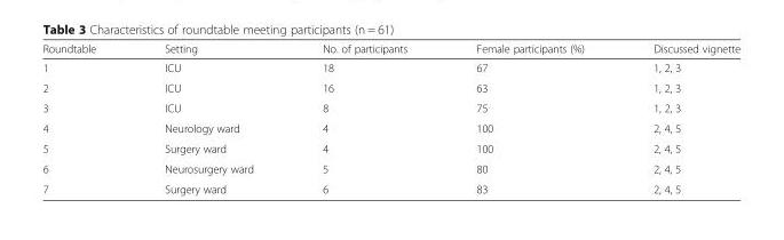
<table><thead><tr><td>Roundtable</td><td>Setting</td><td>No. of participants</td><td>Female participants (%)</td><td>Discussed vignette</td></tr></thead><tbody><tr><td>1</td><td>ICU</td><td>18</td><td>67</td><td>1, 2, 3</td></tr><tr><td>2</td><td>ICU</td><td>16</td><td>63</td><td>1, 2, 3</td></tr><tr><td>3</td><td>ICU</td><td>8</td><td>75</td><td>1, 2, 3</td></tr><tr><td>4</td><td>Neurology ward</td><td>4</td><td>100</td><td>2, 4, 5</td></tr><tr><td>5</td><td>Surgery ward</td><td>4</td><td>100</td><td>2, 4, 5</td></tr><tr><td>6</td><td>Neurosurgery ward</td><td>5</td><td>80</td><td>2, 4, 5</td></tr><tr><td>7</td><td>Surgery ward</td><td>6</td><td>83</td><td>2, 4, 5</td></tr></tbody></table>